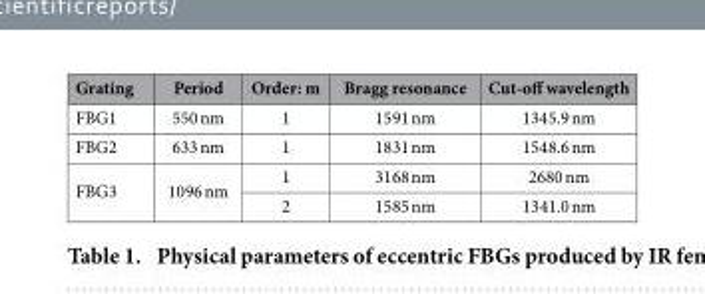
<table><thead><tr><td>Grating</td><td>Period</td><td>Order: m</td><td>Bragg resonance</td><td>Cut-off wavelength</td></tr></thead><tbody><tr><td>FBG1</td><td>550 nm</td><td>1</td><td>1591 nm</td><td>1345.9 nm</td></tr><tr><td>FBG2</td><td>633 nm</td><td>1</td><td>1831 nm</td><td>1548.6 nm</td></tr><tr><td rowspan="2">FBG3</td><td rowspan="2">1096 nm</td><td>1</td><td>3168 nm</td><td>2680 nm</td></tr><tr><td>2</td><td>1585 nm</td><td>1341.0 nm</td></tr></tbody></table>